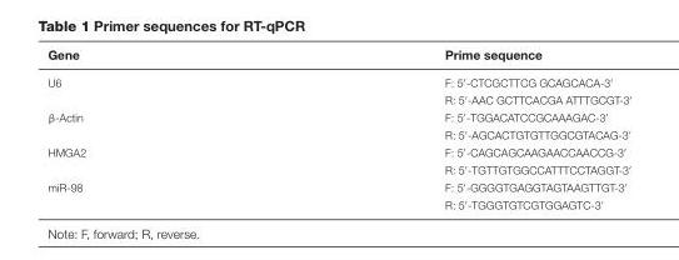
<table><thead><tr><td>Gene</td><td>Prime sequence</td></tr></thead><tbody><tr><td rowspan="2">U6</td><td>F: 5′-CTCGCTTCG GCAGCACA-3′</td></tr><tr><td>R: 5′-AAC GCTTCACGA ATTTGCGT-3′</td></tr><tr><td rowspan="2">β-Actin</td><td>F: 5′-TGGACATCCGCAAAGAC-3′</td></tr><tr><td>R: 5′-AGCACTGTGTTGGCGTACAG-3′</td></tr><tr><td rowspan="2">HMGA2</td><td>F: 5′-CAGCAGCAAGAACCAACCG-3′</td></tr><tr><td>R: 5′-TGTTGTGGCCATTTCCTAGGT-3′</td></tr><tr><td rowspan="2">miR-98</td><td>F: 5′-GGGGTGAGGTAGTAAGTTGT-3′</td></tr><tr><td>R: 5′-TGGGTGTCGTGGAGTC-3′</td></tr></tbody></table>